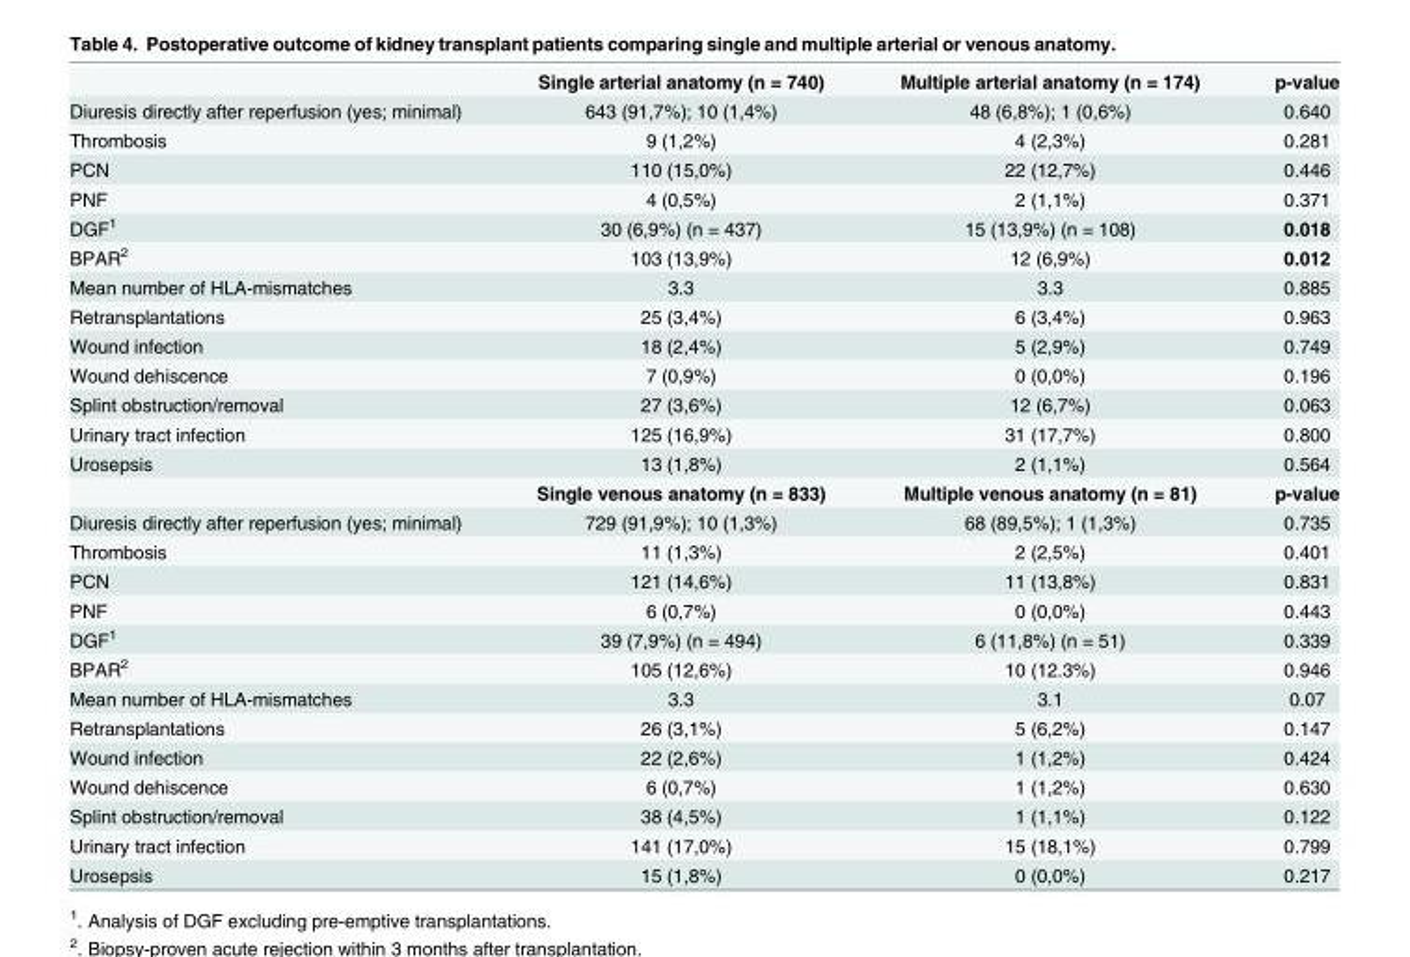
<table><thead><tr><td></td><td>Single arterial anatomy (n = 740)</td><td>Multiple arterial anatomy (n = 174)</td><td>p-value</td></tr></thead><tbody><tr><td>Diuresis directly after reperfusion (yes; minimal)</td><td>643 (91,7%); 10 (1,4%)</td><td>48 (6,8%); 1 (0,6%)</td><td>0.640</td></tr><tr><td>Thrombosis</td><td>9 (1,2%)</td><td>4 (2,3%)</td><td>0.281</td></tr><tr><td>PCN</td><td>110 (15,0%)</td><td>22 (12,7%)</td><td>0.446</td></tr><tr><td>PNF</td><td>4 (0,5%)</td><td>2 (1,1%)</td><td>0.371</td></tr><tr><td>DGF<sup>1</sup></td><td>30 (6,9%) (n = 437)</td><td>15 (13,9%) (n = 108)</td><td>0.018</td></tr><tr><td>BPAR<sup>2</sup></td><td>103 (13,9%)</td><td>12 (6,9%)</td><td>0.012</td></tr><tr><td>Mean number of HLA-mismatches</td><td>3.3</td><td>3.3</td><td>0.885</td></tr><tr><td>Retransplantations</td><td>25 (3,4%)</td><td>6 (3,4%)</td><td>0.963</td></tr><tr><td>Wound infection</td><td>18 (2,4%)</td><td>5 (2,9%)</td><td>0.749</td></tr><tr><td>Wound dehiscence</td><td>7 (0,9%)</td><td>0 (0,0%)</td><td>0.196</td></tr><tr><td>Splint obstruction/removal</td><td>27 (3,6%)</td><td>12 (6,7%)</td><td>0.063</td></tr><tr><td>Urinary tract infection</td><td>125 (16,9%)</td><td>31 (17,7%)</td><td>0.800</td></tr><tr><td rowspan="2">Urosepsis</td><td>13 (1,8%)</td><td>2 (1,1%)</td><td>0.564</td></tr><tr><td>Single venous anatomy (n = 833)</td><td>Multiple venous anatomy (n = 81)</td><td>p-value</td></tr><tr><td>Diuresis directly after reperfusion (yes; minimal)</td><td>729 (91,9%); 10 (1,3%)</td><td>68 (89,5%); 1 (1,3%)</td><td>0.735</td></tr><tr><td>Thrombosis</td><td>11 (1,3%)</td><td>2 (2,5%)</td><td>0.401</td></tr><tr><td>PCN</td><td>121 (14,6%)</td><td>11 (13,8%)</td><td>0.831</td></tr><tr><td>PNF</td><td>6 (0,7%)</td><td>0 (0,0%)</td><td>0.443</td></tr><tr><td>DGF<sup>1</sup></td><td>39 (7,9%) (n = 494)</td><td>6 (11,8%) (n = 51)</td><td>0.339</td></tr><tr><td>BPAR<sup>2</sup></td><td>105 (12,6%)</td><td>10 (12.3%)</td><td>0.946</td></tr><tr><td>Mean number of HLA-mismatches</td><td>3.3</td><td>3.1</td><td>0.07</td></tr><tr><td>Retransplantations</td><td>26 (3,1%)</td><td>5 (6,2%)</td><td>0.147</td></tr><tr><td>Wound infection</td><td>22 (2,6%)</td><td>1 (1,2%)</td><td>0.424</td></tr><tr><td>Wound dehiscence</td><td>6 (0,7%)</td><td>1 (1,2%)</td><td>0.630</td></tr><tr><td>Splint obstruction/removal</td><td>38 (4,5%)</td><td>1 (1,1%)</td><td>0.122</td></tr><tr><td>Urinary tract infection</td><td>141 (17,0%)</td><td>15 (18,1%)</td><td>0.799</td></tr><tr><td>Urosepsis</td><td>15 (1,8%)</td><td>0 (0,0%)</td><td>0.217</td></tr></tbody></table>